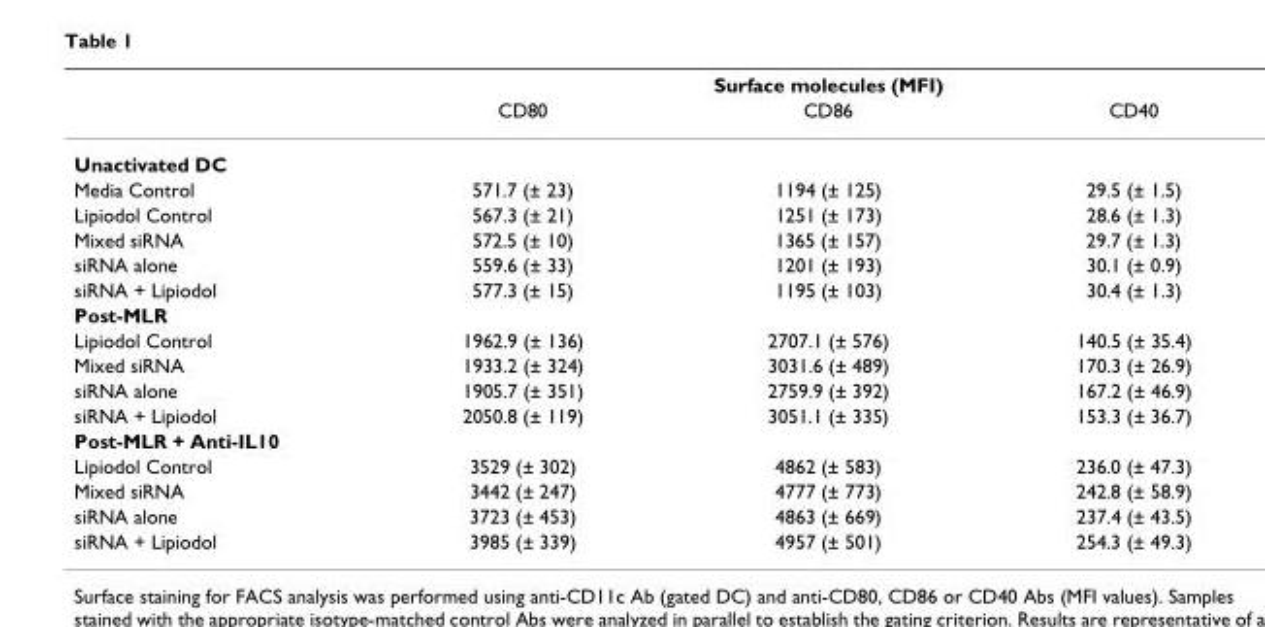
<table><thead><tr><td rowspan="2"></td><td colspan="3">Surface molecules (MFI)</td></tr><tr><td>CD80</td><td>CD86</td><td>CD40</td></tr></thead><tbody><tr><td colspan="4">Unactivated DC</td></tr><tr><td>Media Control</td><td>571.7 (± 23)</td><td>1194 (± 125)</td><td>29.5 (± 1.5)</td></tr><tr><td>Lipiodol Control</td><td>567.3 (± 21)</td><td>1251 (± 173)</td><td>28.6 (± 1.3)</td></tr><tr><td>Mixed siRNA</td><td>572.5 (± 10)</td><td>1365 (± 157)</td><td>29.7 (± 1.3)</td></tr><tr><td>siRNA alone</td><td>559.6 (± 33)</td><td>1201 (± 193)</td><td>30.1 (± 0.9)</td></tr><tr><td>siRNA + Lipiodol</td><td>577.3 (± 15)</td><td>1195 (± 103)</td><td>30.4 (± 1.3)</td></tr><tr><td colspan="4">Post-MLR</td></tr><tr><td>Lipiodol Control</td><td>1962.9 (± 136)</td><td>2707.1 (± 576)</td><td>140.5 (± 35.4)</td></tr><tr><td>Mixed siRNA</td><td>1933.2 (± 324)</td><td>3031.6 (± 489)</td><td>170.3 (± 26.9)</td></tr><tr><td>siRNA alone</td><td>1905.7 (± 351)</td><td>2759.9 (± 392)</td><td>167.2 (± 46.9)</td></tr><tr><td>siRNA + Lipiodol</td><td>2050.8 (± 119)</td><td>3051.1 (± 335)</td><td>153.3 (± 36.7)</td></tr><tr><td colspan="4">Post-MLR + Anti-IL10</td></tr><tr><td>Lipiodol Control</td><td>3529 (± 302)</td><td>4862 (± 583)</td><td>236.0 (± 47.3)</td></tr><tr><td>Mixed siRNA</td><td>3442 (± 247)</td><td>4777 (± 773)</td><td>242.8 (± 58.9)</td></tr><tr><td>siRNA alone</td><td>3723 (± 453)</td><td>4863 (± 669)</td><td>237.4 (± 43.5)</td></tr><tr><td>siRNA + Lipiodol</td><td>3985 (± 339)</td><td>4957 (± 501)</td><td>254.3 (± 49.3)</td></tr></tbody></table>